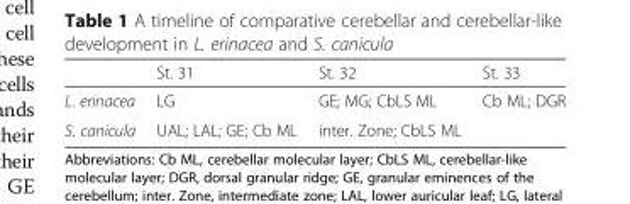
<table><thead><tr><td></td><td>St. 31</td><td>St. 32</td><td>St. 33</td></tr></thead><tbody><tr><td>L. erinacea</td><td>LG</td><td>GE; MG; CbLS ML</td><td>Cb ML; DGR</td></tr><tr><td>S. canicula</td><td>UAL; LAL; GE; Cb ML</td><td>inter. Zone; CbLS ML</td><td></td></tr></tbody></table>